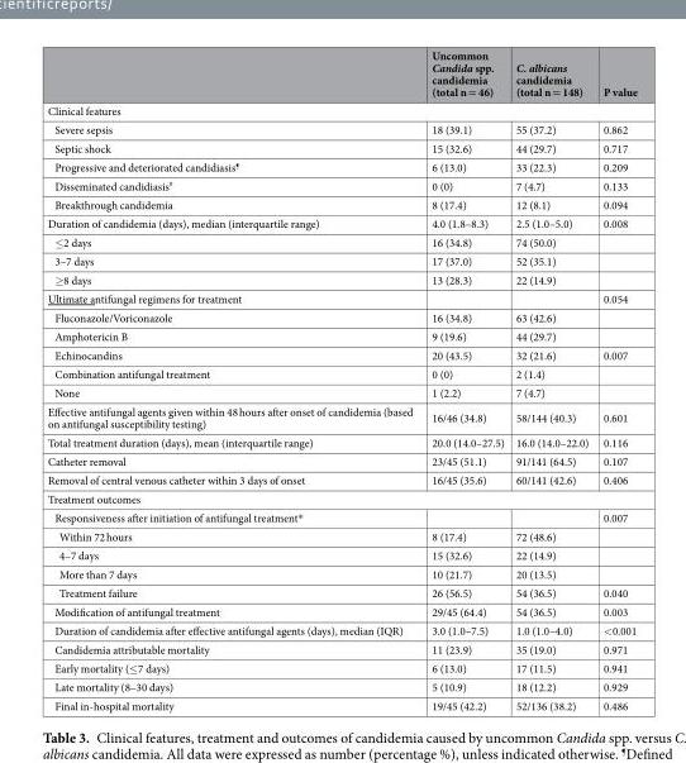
<table><thead><tr><td></td><td>Uncommon Candida spp. candidemia (total n = 46)</td><td>C. albicans candidemia (total n = 148)</td><td>P value</td></tr></thead><tbody><tr><td colspan="4">Clinical features</td></tr><tr><td>Severe sepsis</td><td>18 (39.1)</td><td>55 (37.2)</td><td>0.862</td></tr><tr><td>Septic shock</td><td>15 (32.6)</td><td>44 (29.7)</td><td>0.717</td></tr><tr><td>Progressive and deteriorated candidiasis<sup>¶</sup></td><td>6 (13.0)</td><td>33 (22.3)</td><td>0.209</td></tr><tr><td>Disseminated candidiasis<sup>#</sup></td><td>0 (0)</td><td>7 (4.7)</td><td>0.133</td></tr><tr><td>Breakthrough candidemia</td><td>8 (17.4)</td><td>12 (8.1)</td><td>0.094</td></tr><tr><td>Duration of candidemia (days), median (interquartile range)</td><td>4.0 (1.8–8.3)</td><td>2.5 (1.0–5.0)</td><td>0.008</td></tr><tr><td>≤2 days</td><td>16 (34.8)</td><td>74 (50.0)</td><td></td></tr><tr><td>3–7 days</td><td>17 (37.0)</td><td>52 (35.1)</td><td></td></tr><tr><td>≥8 days</td><td>13 (28.3)</td><td>22 (14.9)</td><td></td></tr><tr><td>Ultimate antifungal regimens for treatment</td><td></td><td></td><td>0.054</td></tr><tr><td>Fluconazole/Voriconazole</td><td>16 (34.8)</td><td>63 (42.6)</td><td></td></tr><tr><td>Amphotericin B</td><td>9 (19.6)</td><td>44 (29.7)</td><td></td></tr><tr><td>Echinocandins</td><td>20 (43.5)</td><td>32 (21.6)</td><td>0.007</td></tr><tr><td>Combination antifungal treatment</td><td>0 (0)</td><td>2 (1.4)</td><td></td></tr><tr><td>None</td><td>1 (2.2)</td><td>7 (4.7)</td><td></td></tr><tr><td>Effective antifungal agents given within 48 hours after onset of candidemia (based on antifungal susceptibility testing)</td><td>16/46 (34.8)</td><td>58/144 (40.3)</td><td>0.601</td></tr><tr><td>Total treatment duration (days), mean (interquartile range)</td><td>20.0 (14.0–27.5)</td><td>16.0 (14.0–22.0)</td><td>0.116</td></tr><tr><td>Catheter removal</td><td>23/45 (51.1)</td><td>91/141 (64.5)</td><td>0.107</td></tr><tr><td>Removal of central venous catheter within 3 days of onset</td><td>16/45 (35.6)</td><td>60/141 (42.6)</td><td>0.406</td></tr><tr><td colspan="4">Treatment outcomes</td></tr><tr><td>Responsiveness after initiation of antifungal treatment*</td><td></td><td></td><td>0.007</td></tr><tr><td>Within 72 hours</td><td>8 (17.4)</td><td>72 (48.6)</td><td></td></tr><tr><td>4–7 days</td><td>15 (32.6)</td><td>22 (14.9)</td><td></td></tr><tr><td>More than 7 days</td><td>10 (21.7)</td><td>20 (13.5)</td><td></td></tr><tr><td>Treatment failure</td><td>26 (56.5)</td><td>54 (36.5)</td><td>0.040</td></tr><tr><td>Modification of antifungal treatment</td><td>29/45 (64.4)</td><td>54 (36.5)</td><td>0.003</td></tr><tr><td>Duration of candidemia after effective antifungal agents (days), median (IQR)</td><td>3.0 (1.0–7.5)</td><td>1.0 (1.0–4.0)</td><td>&lt;0.001</td></tr><tr><td>Candidemia attributable mortality</td><td>11 (23.9)</td><td>35 (19.0)</td><td>0.971</td></tr><tr><td>Early mortality (≤7 days)</td><td>6 (13.0)</td><td>17 (11.5)</td><td>0.941</td></tr><tr><td>Late mortality (8–30 days)</td><td>5 (10.9)</td><td>18 (12.2)</td><td>0.929</td></tr><tr><td>Final in-hospital mortality</td><td>19/45 (42.2)</td><td>52/136 (38.2)</td><td>0.486</td></tr></tbody></table>